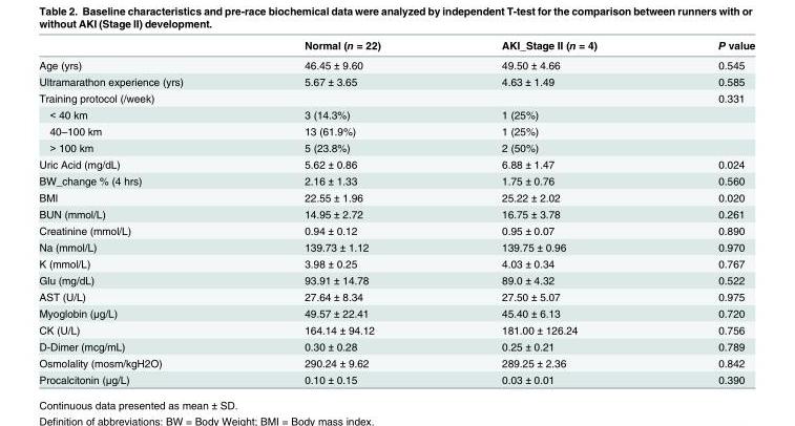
<table><thead><tr><td></td><td>Normal (n = 22)</td><td>AKI_Stage II (n = 4)</td><td>P value</td></tr></thead><tbody><tr><td>Age (yrs)</td><td>46.45 ± 9.60</td><td>49.50 ± 4.66</td><td>0.545</td></tr><tr><td>Ultramarathon experience (yrs)</td><td>5.67 ± 3.65</td><td>4.63 ± 1.49</td><td>0.585</td></tr><tr><td>Training protocol (/week)</td><td></td><td></td><td>0.331</td></tr><tr><td>&lt; 40 km</td><td>3 (14.3%)</td><td>1 (25%)</td><td></td></tr><tr><td>40–100 km</td><td>13 (61.9%)</td><td>1 (25%)</td><td></td></tr><tr><td>&gt; 100 km</td><td>5 (23.8%)</td><td>2 (50%)</td><td></td></tr><tr><td>Uric Acid (mg/dL)</td><td>5.62 ± 0.86</td><td>6.88 ± 1.47</td><td>0.024</td></tr><tr><td>BW_change % (4 hrs)</td><td>2.16 ± 1.33</td><td>1.75 ± 0.76</td><td>0.560</td></tr><tr><td>BMI</td><td>22.55 ± 1.96</td><td>25.22 ± 2.02</td><td>0.020</td></tr><tr><td>BUN (mmol/L)</td><td>14.95 ± 2.72</td><td>16.75 ± 3.78</td><td>0.261</td></tr><tr><td>Creatinine (mmol/L)</td><td>0.94 ± 0.12</td><td>0.95 ± 0.07</td><td>0.890</td></tr><tr><td>Na (mmol/L)</td><td>139.73 ± 1.12</td><td>139.75 ± 0.96</td><td>0.970</td></tr><tr><td>K (mmol/L)</td><td>3.98 ± 0.25</td><td>4.03 ± 0.34</td><td>0.767</td></tr><tr><td>Glu (mg/dL)</td><td>93.91 ± 14.78</td><td>89.0 ± 4.32</td><td>0.522</td></tr><tr><td>AST (U/L)</td><td>27.64 ± 8.34</td><td>27.50 ± 5.07</td><td>0.975</td></tr><tr><td>Myoglobin (μg/L)</td><td>49.57 ± 22.41</td><td>45.40 ± 6.13</td><td>0.720</td></tr><tr><td>CK (U/L)</td><td>164.14 ± 94.12</td><td>181.00 ± 126.24</td><td>0.756</td></tr><tr><td>D-Dimer (mcg/mL)</td><td>0.30 ± 0.28</td><td>0.25 ± 0.21</td><td>0.789</td></tr><tr><td>Osmolality (mosm/kgH2O)</td><td>290.24 ± 9.62</td><td>289.25 ± 2.36</td><td>0.842</td></tr><tr><td>Procalcitonin (μg/L)</td><td>0.10 ± 0.15</td><td>0.03 ± 0.01</td><td>0.390</td></tr></tbody></table>